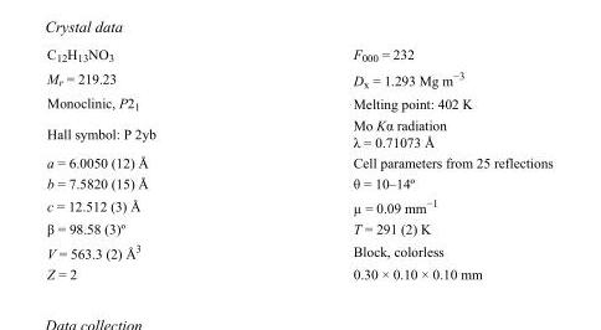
<table><tbody><tr><td>C<sub>12</sub>H<sub>13</sub>NO<sub>3</sub></td><td>F<sub>000</sub> = 232</td></tr><tr><td>M<sub>r</sub> = 219.23</td><td>D<sub>x</sub> = 1.293 Mg m<sup>−3</sup></td></tr><tr><td>Monoclinic, P2<sub>1</sub></td><td>Melting point: 402 K</td></tr><tr><td>Hall symbol: P 2yb</td><td>Mo Kα radiation λ = 0.71073 Å</td></tr><tr><td>a = 6.0050 (12) Å</td><td>Cell parameters from 25 reflections</td></tr><tr><td>b = 7.5820 (15) Å</td><td>θ = 10–14º</td></tr><tr><td>c = 12.512 (3) Å</td><td>µ = 0.09 mm<sup>−1</sup></td></tr><tr><td>β = 98.58 (3)º</td><td>T = 291 (2) K</td></tr><tr><td>V = 563.3 (2) Å<sup>3</sup></td><td>Block, colorless</td></tr><tr><td>Z = 2</td><td>0.30 × 0.10 × 0.10 mm</td></tr></tbody></table>